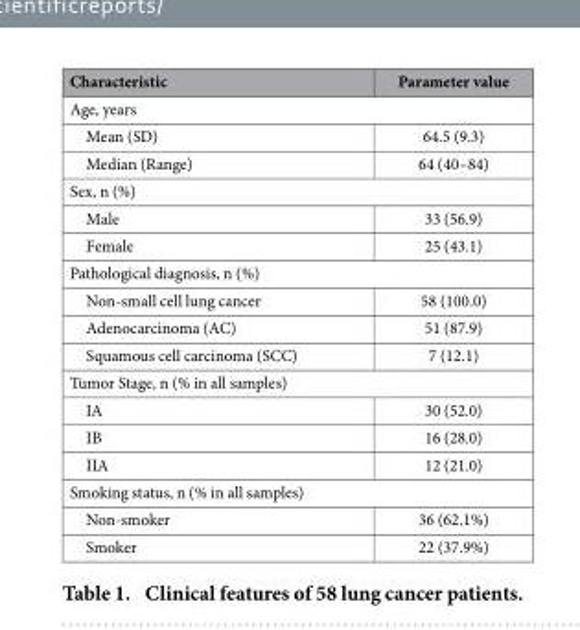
<table><thead><tr><td>Characteristic</td><td>Parameter value</td></tr></thead><tbody><tr><td colspan="2">Age, years</td></tr><tr><td>Mean (SD)</td><td>64.5 (9.3)</td></tr><tr><td>Median (Range)</td><td>64 (40–84)</td></tr><tr><td colspan="2">Sex, n (%)</td></tr><tr><td>Male</td><td>33 (56.9)</td></tr><tr><td>Female</td><td>25 (43.1)</td></tr><tr><td colspan="2">Pathological diagnosis, n (%)</td></tr><tr><td>Non-small cell lung cancer</td><td>58 (100.0)</td></tr><tr><td>Adenocarcinoma (AC)</td><td>51 (87.9)</td></tr><tr><td>Squamous cell carcinoma (SCC)</td><td>7 (12.1)</td></tr><tr><td colspan="2">Tumor Stage, n (% in all samples)</td></tr><tr><td>IA</td><td>30 (52.0)</td></tr><tr><td>IB</td><td>16 (28.0)</td></tr><tr><td>IIA</td><td>12 (21.0)</td></tr><tr><td colspan="2">Smoking status, n (% in all samples)</td></tr><tr><td>Non-smoker</td><td>36 (62.1%)</td></tr><tr><td>Smoker</td><td>22 (37.9%)</td></tr></tbody></table>